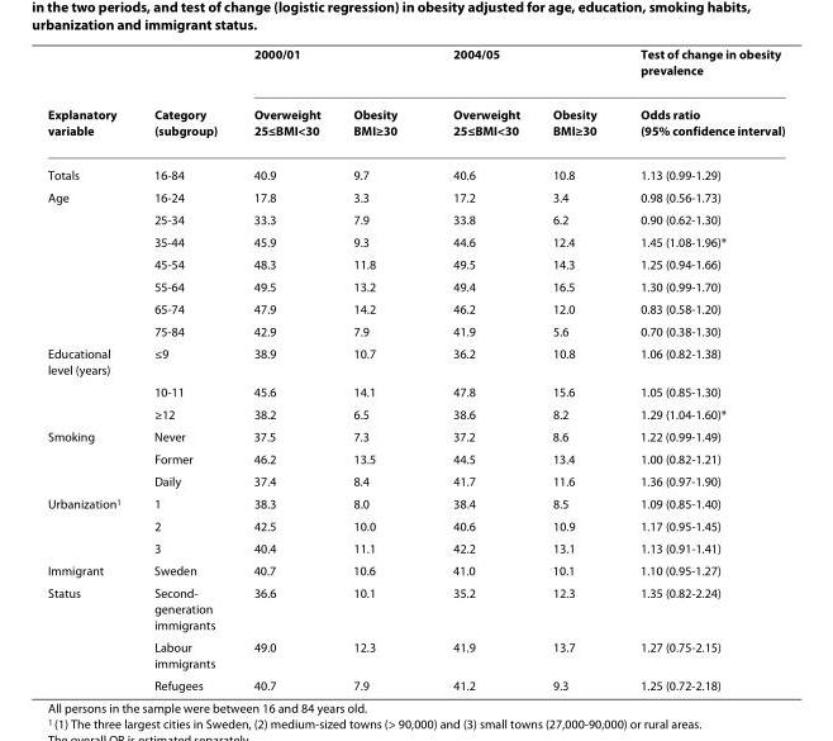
<table><thead><tr><td rowspan="2">Explanatory variable</td><td rowspan="2">Category (subgroup)</td><td colspan="2">2000/01</td><td colspan="2">2004/05</td><td rowspan="2">Test of change in obesity prevalence Odds ratio (95% confidence interval)</td></tr><tr><td>Overweight 25≤BMI&lt;30</td><td>Obesity BMI≥30</td><td>Overweight 25≤BMI&lt;30</td><td>Obesity BMI≥30</td></tr></thead><tbody><tr><td>Totals</td><td>16-84</td><td>40.9</td><td>9.7</td><td>40.6</td><td>10.8</td><td>1.13 (0.99-1.29)</td></tr><tr><td rowspan="7">Age</td><td>16-24</td><td>17.8</td><td>3.3</td><td>17.2</td><td>3.4</td><td>0.98 (0.56-1.73)</td></tr><tr><td>25-34</td><td>33.3</td><td>7.9</td><td>33.8</td><td>6.2</td><td>0.90 (0.62-1.30)</td></tr><tr><td>35-44</td><td>45.9</td><td>9.3</td><td>44.6</td><td>12.4</td><td>1.45 (1.08-1.96)*</td></tr><tr><td>45-54</td><td>48.3</td><td>11.8</td><td>49.5</td><td>14.3</td><td>1.25 (0.94-1.66)</td></tr><tr><td>55-64</td><td>49.5</td><td>13.2</td><td>49.4</td><td>16.5</td><td>1.30 (0.99-1.70)</td></tr><tr><td>65-74</td><td>47.9</td><td>14.2</td><td>46.2</td><td>12.0</td><td>0.83 (0.58-1.20)</td></tr><tr><td>75-84</td><td>42.9</td><td>7.9</td><td>41.9</td><td>5.6</td><td>0.70 (0.38-1.30)</td></tr><tr><td rowspan="3">Educational level (years)</td><td>≤9</td><td>38.9</td><td>10.7</td><td>36.2</td><td>10.8</td><td>1.06 (0.82-1.38)</td></tr><tr><td>10-11</td><td>45.6</td><td>14.1</td><td>47.8</td><td>15.6</td><td>1.05 (0.85-1.30)</td></tr><tr><td>≥12</td><td>38.2</td><td>6.5</td><td>38.6</td><td>8.2</td><td>1.29 (1.04-1.60)*</td></tr><tr><td rowspan="3">Smoking</td><td>Never</td><td>37.5</td><td>7.3</td><td>37.2</td><td>8.6</td><td>1.22 (0.99-1.49)</td></tr><tr><td>Former</td><td>46.2</td><td>13.5</td><td>44.5</td><td>13.4</td><td>1.00 (0.82-1.21)</td></tr><tr><td>Daily</td><td>37.4</td><td>8.4</td><td>41.7</td><td>11.6</td><td>1.36 (0.97-1.90)</td></tr><tr><td rowspan="3">Urbanization<sup>1</sup></td><td>1</td><td>38.3</td><td>8.0</td><td>38.4</td><td>8.5</td><td>1.09 (0.85-1.40)</td></tr><tr><td>2</td><td>42.5</td><td>10.0</td><td>40.6</td><td>10.9</td><td>1.17 (0.95-1.45)</td></tr><tr><td>3</td><td>40.4</td><td>11.1</td><td>42.2</td><td>13.1</td><td>1.13 (0.91-1.41)</td></tr><tr><td>Immigrant</td><td>Sweden</td><td>40.7</td><td>10.6</td><td>41.0</td><td>10.1</td><td>1.10 (0.95-1.27)</td></tr><tr><td rowspan="3">Status</td><td>Second- generation immigrants</td><td>36.6</td><td>10.1</td><td>35.2</td><td>12.3</td><td>1.35 (0.82-2.24)</td></tr><tr><td>Labour immigrants</td><td>49.0</td><td>12.3</td><td>41.9</td><td>13.7</td><td>1.27 (0.75-2.15)</td></tr><tr><td>Refugees</td><td>40.7</td><td>7.9</td><td>41.2</td><td>9.3</td><td>1.25 (0.72-2.18)</td></tr></tbody></table>